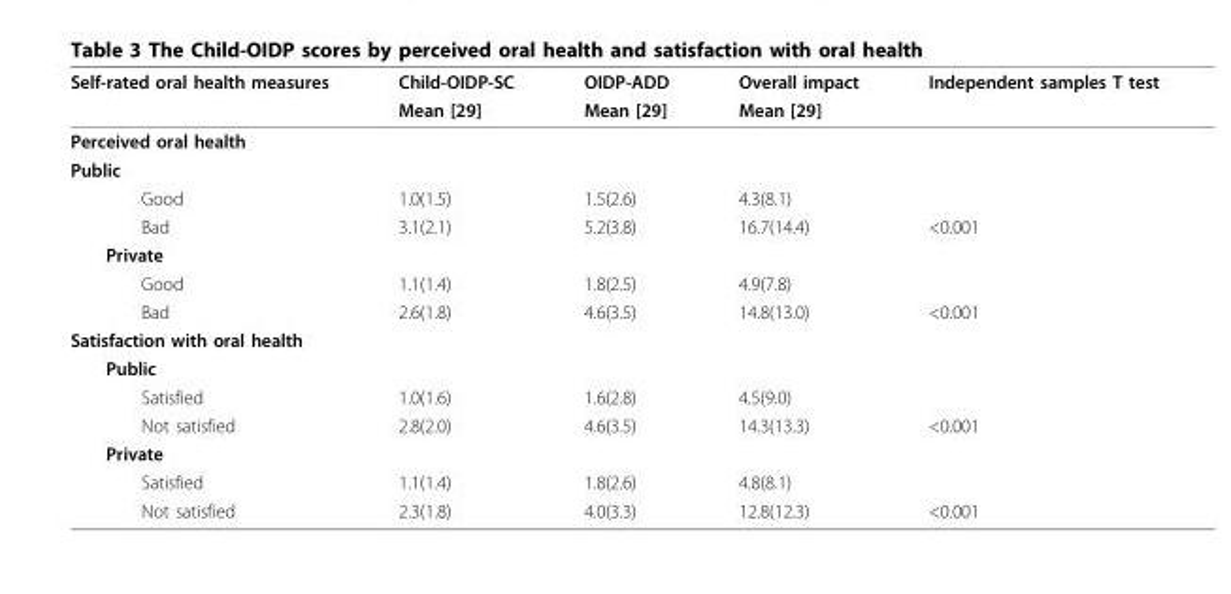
<table><thead><tr><td rowspan="2">Self-rated oral health measures</td><td rowspan="2">Child-OIDP-SC Mean [29]</td><td rowspan="2">OIDP-ADD Mean [29]</td><td rowspan="2">Overall impact Mean [29]</td><td rowspan="2">Independent samples T test</td></tr><tr></tr></thead><tbody><tr><td colspan="5">Perceived oral health</td></tr><tr><td colspan="5">Public</td></tr><tr><td>Good</td><td>1.0(1.5)</td><td>1.5(2.6)</td><td>4.3(8.1)</td><td></td></tr><tr><td>Bad</td><td>3.1(2.1)</td><td>5.2(3.8)</td><td>16.7(14.4)</td><td>&lt;0.001</td></tr><tr><td colspan="5">Private</td></tr><tr><td>Good</td><td>1.1(1.4)</td><td>1.8(2.5)</td><td>4.9(7.8)</td><td></td></tr><tr><td>Bad</td><td>2.6(1.8)</td><td>4.6(3.5)</td><td>14.8(13.0)</td><td>&lt;0.001</td></tr><tr><td colspan="5">Satisfaction with oral health</td></tr><tr><td colspan="5">Public</td></tr><tr><td>Satisfied</td><td>1.0(1.6)</td><td>1.6(2.8)</td><td>4.5(9.0)</td><td></td></tr><tr><td>Not satisfied</td><td>2.8(2.0)</td><td>4.6(3.5)</td><td>14.3(13.3)</td><td>&lt;0.001</td></tr><tr><td colspan="5">Private</td></tr><tr><td>Satisfied</td><td>1.1(1.4)</td><td>1.8(2.6)</td><td>4.8(8.1)</td><td></td></tr><tr><td>Not satisfied</td><td>2.3(1.8)</td><td>4.0(3.3)</td><td>12.8(12.3)</td><td>&lt;0.001</td></tr></tbody></table>